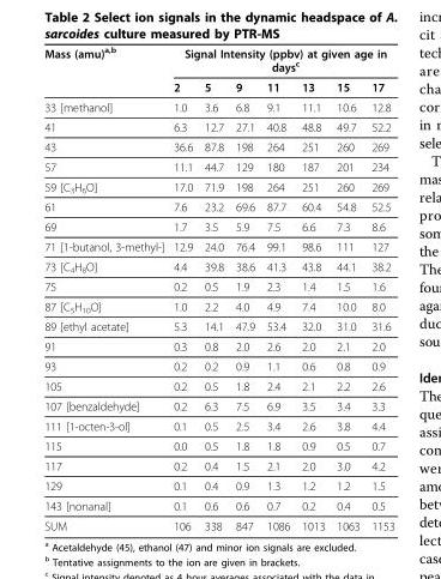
<table><thead><tr><td rowspan="2">Mass (amu)<sup>a,b</sup></td><td colspan="7">Signal Intensity (ppbv) at given age in days<sup>c</sup></td></tr><tr><td>2</td><td>5</td><td>9</td><td>11</td><td>13</td><td>15</td><td>17</td></tr></thead><tbody><tr><td>33 [methanol]</td><td>1.0</td><td>3.6</td><td>6.8</td><td>9.1</td><td>11.1</td><td>10.6</td><td>12.8</td></tr><tr><td>41</td><td>6.3</td><td>12.7</td><td>27.1</td><td>40.8</td><td>48.8</td><td>49.7</td><td>52.2</td></tr><tr><td>43</td><td>36.6</td><td>87.8</td><td>198</td><td>264</td><td>251</td><td>260</td><td>269</td></tr><tr><td>57</td><td>11.1</td><td>44.7</td><td>129</td><td>180</td><td>187</td><td>201</td><td>234</td></tr><tr><td>59 [C<sub>3</sub>H<sub>6</sub>O]</td><td>17.0</td><td>71.9</td><td>198</td><td>264</td><td>251</td><td>260</td><td>269</td></tr><tr><td>61</td><td>7.6</td><td>23.2</td><td>69.6</td><td>87.7</td><td>60.4</td><td>54.8</td><td>52.5</td></tr><tr><td>69</td><td>1.7</td><td>3.5</td><td>5.9</td><td>7.5</td><td>6.6</td><td>7.3</td><td>8.6</td></tr><tr><td>71 [1-butanol, 3-methyl-]</td><td>12.9</td><td>24.0</td><td>76.4</td><td>99.1</td><td>98.6</td><td>111</td><td>127</td></tr><tr><td>73 [C<sub>4</sub>H<sub>8</sub>O]</td><td>4.4</td><td>39.8</td><td>38.6</td><td>41.3</td><td>43.8</td><td>44.1</td><td>38.2</td></tr><tr><td>75</td><td>0.2</td><td>0.5</td><td>1.9</td><td>2.3</td><td>1.4</td><td>1.5</td><td>1.6</td></tr><tr><td>87 [C<sub>5</sub>H<sub>10</sub>O]</td><td>1.0</td><td>2.2</td><td>4.0</td><td>4.9</td><td>7.4</td><td>10.0</td><td>8.0</td></tr><tr><td>89 [ethyl acetate]</td><td>5.3</td><td>14.1</td><td>47.9</td><td>53.4</td><td>32.0</td><td>31.0</td><td>31.6</td></tr><tr><td>91</td><td>0.3</td><td>0.8</td><td>2.0</td><td>2.6</td><td>2.0</td><td>2.1</td><td>2.0</td></tr><tr><td>93</td><td>0.2</td><td>0.2</td><td>0.9</td><td>1.1</td><td>0.6</td><td>0.8</td><td>0.9</td></tr><tr><td>105</td><td>0.2</td><td>0.5</td><td>1.8</td><td>2.4</td><td>2.1</td><td>2.2</td><td>2.6</td></tr><tr><td>107 [benzaldehyde]</td><td>0.2</td><td>6.3</td><td>7.5</td><td>6.9</td><td>3.5</td><td>3.4</td><td>3.3</td></tr><tr><td>111 [1-octen-3-ol]</td><td>0.1</td><td>0.5</td><td>2.5</td><td>3.4</td><td>2.6</td><td>3.8</td><td>4.4</td></tr><tr><td>115</td><td>0.0</td><td>0.5</td><td>1.8</td><td>1.8</td><td>0.9</td><td>0.5</td><td>0.7</td></tr><tr><td>117</td><td>0.2</td><td>0.4</td><td>1.5</td><td>2.1</td><td>2.0</td><td>3.0</td><td>4.2</td></tr><tr><td>129</td><td>0.1</td><td>0.4</td><td>0.9</td><td>1.3</td><td>1.2</td><td>1.2</td><td>1.5</td></tr><tr><td>143 [nonanal]</td><td>0.1</td><td>0.6</td><td>0.6</td><td>0.7</td><td>0.2</td><td>0.4</td><td>0.5</td></tr><tr><td>SUM</td><td>106</td><td>338</td><td>847</td><td>1086</td><td>1013</td><td>1063</td><td>1153</td></tr></tbody></table>